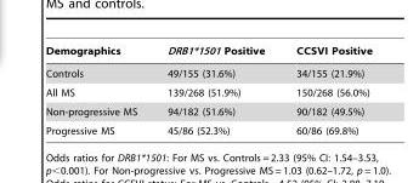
<table><thead><tr><td>Demographics</td><td>DRB1*1501 Positive</td><td>CCSVI Positive</td></tr></thead><tbody><tr><td>Controls</td><td>49/155 (31.6%)</td><td>34/155 (21.9%)</td></tr><tr><td>All MS</td><td>139/268 (51.9%)</td><td>150/268 (56.0%)</td></tr><tr><td>Non-progressive MS</td><td>94/182 (51.6%)</td><td>90/182 (49.5%)</td></tr><tr><td>Progressive MS</td><td>45/86 (52.3%)</td><td>60/86 (69.8%)</td></tr></tbody></table>